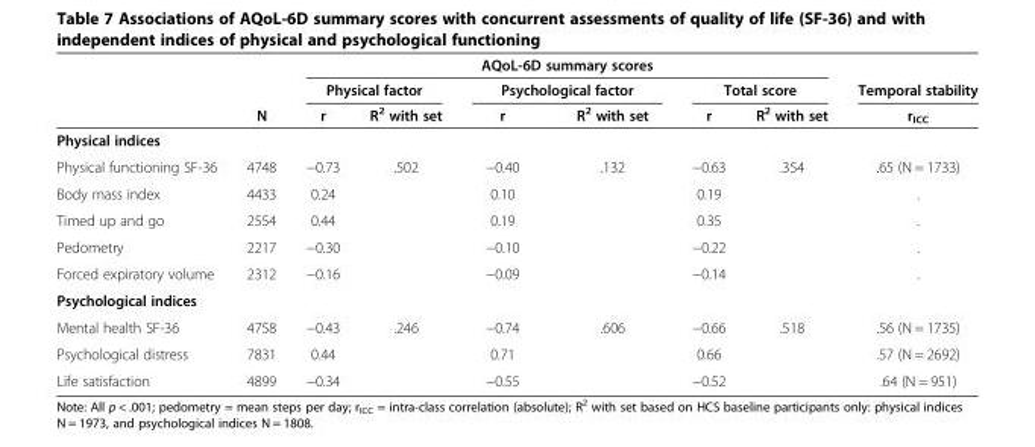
<table><thead><tr><td rowspan="3"></td><td rowspan="3">N</td><td></td><td></td><td rowspan="2" colspan="2">AQoL-6D summary scores Psychological factor</td><td></td><td></td><td rowspan="3">Temporal stability r<sub>ICC</sub></td></tr><tr><td colspan="2">Physical factor</td><td colspan="2">Total score</td></tr><tr><td>r</td><td>R<sup>2</sup> with set</td><td>r</td><td>R<sup>2</sup> with set</td><td>r</td><td>R<sup>2</sup> with set</td></tr></thead><tbody><tr><td colspan="9">Physical indices</td></tr><tr><td>Physical functioning SF-36</td><td>4748</td><td>−0.73</td><td rowspan="5">.502</td><td>−0.40</td><td rowspan="5">.132</td><td>−0.63</td><td rowspan="5">.354</td><td>.65 (N = 1733)</td></tr><tr><td>Body mass index</td><td>4433</td><td>0.24</td><td>0.10</td><td>0.19</td><td>.</td></tr><tr><td>Timed up and go</td><td>2554</td><td>0.44</td><td>0.19</td><td>0.35</td><td>.</td></tr><tr><td>Pedometry</td><td>2217</td><td>−0.30</td><td>−0.10</td><td>−0.22</td><td>.</td></tr><tr><td>Forced expiratory volume</td><td>2312</td><td>−0.16</td><td>−0.09</td><td>−0.14</td><td>.</td></tr><tr><td colspan="9">Psychological indices</td></tr><tr><td>Mental health SF-36</td><td>4758</td><td>−0.43</td><td rowspan="2">.246</td><td>−0.74</td><td rowspan="2">.606</td><td>−0.66</td><td rowspan="2">.518</td><td>.56 (N = 1735)</td></tr><tr><td>Psychological distress</td><td>7831</td><td>0.44</td><td>0.71</td><td>0.66</td><td>.57 (N = 2692)</td></tr><tr><td>Life satisfaction</td><td>4899</td><td>−0.34</td><td></td><td>−0.55</td><td></td><td>−0.52</td><td></td><td>.64 (N = 951)</td></tr></tbody></table>